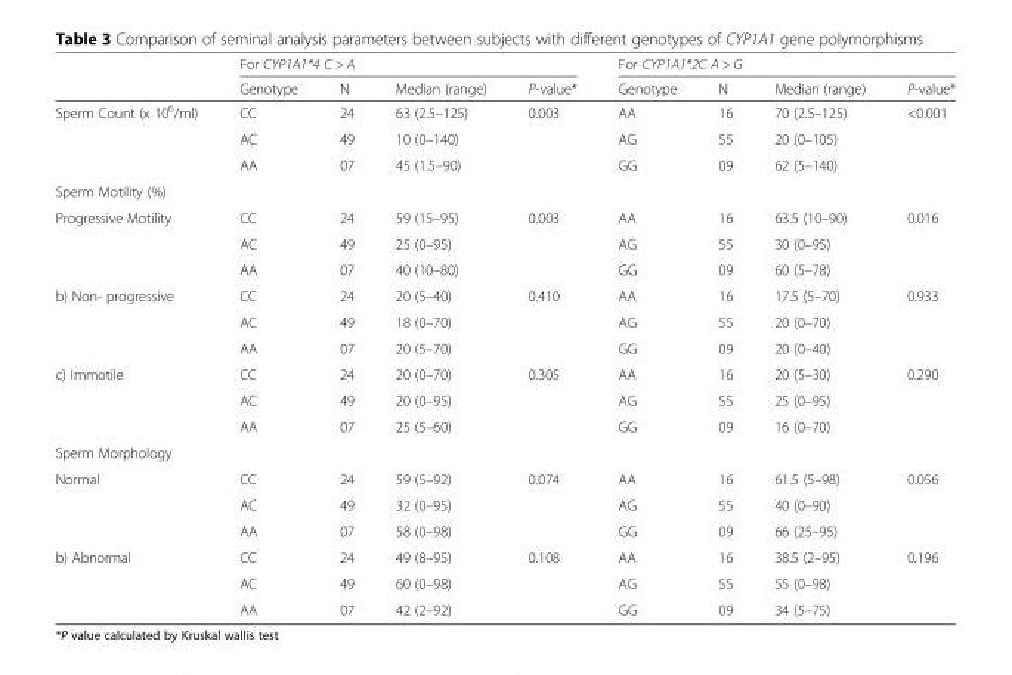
<table><thead><tr><td rowspan="2"></td><td colspan="4">For CYP1A1*4 C &gt; A</td><td colspan="4">For CYP1A1*2C A &gt; G</td></tr><tr><td>Genotype</td><td>N</td><td>Median (range)</td><td>P-value*</td><td>Genotype</td><td>N</td><td>Median (range)</td><td>P-value*</td></tr></thead><tbody><tr><td rowspan="3">Sperm Count (x 10<sup>6</sup>/ml)</td><td>CC</td><td>24</td><td>63 (2.5–125)</td><td>0.003</td><td>AA</td><td>16</td><td>70 (2.5–125)</td><td>&lt;0.001</td></tr><tr><td>AC</td><td>49</td><td>10 (0–140)</td><td></td><td>AG</td><td>55</td><td>20 (0–105)</td><td></td></tr><tr><td>AA</td><td>07</td><td>45 (1.5–90)</td><td></td><td>GG</td><td>09</td><td>62 (5–140)</td><td></td></tr><tr><td colspan="9">Sperm Motility (%)</td></tr><tr><td rowspan="3">Progressive Motility</td><td>CC</td><td>24</td><td>59 (15–95)</td><td>0.003</td><td>AA</td><td>16</td><td>63.5 (10–90)</td><td>0.016</td></tr><tr><td>AC</td><td>49</td><td>25 (0–95)</td><td></td><td>AG</td><td>55</td><td>30 (0–95)</td><td></td></tr><tr><td>AA</td><td>07</td><td>40 (10–80)</td><td></td><td>GG</td><td>09</td><td>60 (5–78)</td><td></td></tr><tr><td rowspan="3">b) Non- progressive</td><td>CC</td><td>24</td><td>20 (5–40)</td><td>0.410</td><td>AA</td><td>16</td><td>17.5 (5–70)</td><td>0.933</td></tr><tr><td>AC</td><td>49</td><td>18 (0–70)</td><td></td><td>AG</td><td>55</td><td>20 (0–70)</td><td></td></tr><tr><td>AA</td><td>07</td><td>20 (5–70)</td><td></td><td>GG</td><td>09</td><td>20 (0–40)</td><td></td></tr><tr><td rowspan="3">c) Immotile</td><td>CC</td><td>24</td><td>20 (0–70)</td><td>0.305</td><td>AA</td><td>16</td><td>20 (5–30)</td><td>0.290</td></tr><tr><td>AC</td><td>49</td><td>20 (0–95)</td><td></td><td>AG</td><td>55</td><td>25 (0–95)</td><td></td></tr><tr><td>AA</td><td>07</td><td>25 (5–60)</td><td></td><td>GG</td><td>09</td><td>16 (0–70)</td><td></td></tr><tr><td colspan="9">Sperm Morphology</td></tr><tr><td rowspan="3">Normal</td><td>CC</td><td>24</td><td>59 (5–92)</td><td>0.074</td><td>AA</td><td>16</td><td>61.5 (5–98)</td><td>0.056</td></tr><tr><td>AC</td><td>49</td><td>32 (0–95)</td><td></td><td>AG</td><td>55</td><td>40 (0–90)</td><td></td></tr><tr><td>AA</td><td>07</td><td>58 (0–98)</td><td></td><td>GG</td><td>09</td><td>66 (25–95)</td><td></td></tr><tr><td rowspan="3">b) Abnormal</td><td>CC</td><td>24</td><td>49 (8–95)</td><td>0.108</td><td>AA</td><td>16</td><td>38.5 (2–95)</td><td>0.196</td></tr><tr><td>AC</td><td>49</td><td>60 (0–98)</td><td></td><td>AG</td><td>55</td><td>55 (0–98)</td><td></td></tr><tr><td>AA</td><td>07</td><td>42 (2–92)</td><td></td><td>GG</td><td>09</td><td>34 (5–75)</td><td></td></tr></tbody></table>